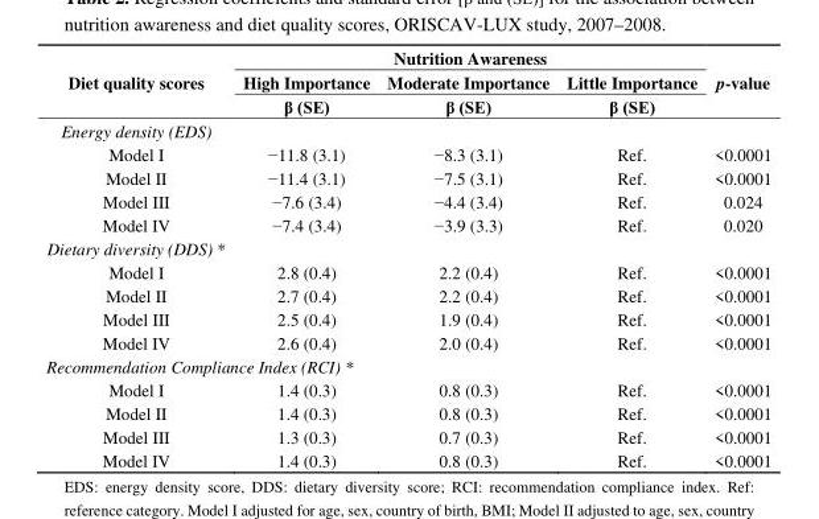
<table><thead><tr><td rowspan="3">Diet quality scores</td><td colspan="3">Nutrition Awareness</td><td rowspan="3">p-value</td></tr><tr><td rowspan="2">High Importance β (SE)</td><td rowspan="2">Moderate Importance β (SE)</td><td rowspan="2">Little Importance β (SE)</td></tr><tr></tr></thead><tbody><tr><td colspan="5">Energy density (EDS)</td></tr><tr><td>Model I</td><td>−11.8 (3.1)</td><td>−8.3 (3.1)</td><td>Ref.</td><td>&lt;0.0001</td></tr><tr><td>Model II</td><td>−11.4 (3.1)</td><td>−7.5 (3.1)</td><td>Ref.</td><td>&lt;0.0001</td></tr><tr><td>Model III</td><td>−7.6 (3.4)</td><td>−4.4 (3.4)</td><td>Ref.</td><td>0.024</td></tr><tr><td>Model IV</td><td>−7.4 (3.4)</td><td>−3.9 (3.3)</td><td>Ref.</td><td>0.020</td></tr><tr><td colspan="5">Dietary diversity (DDS) *</td></tr><tr><td>Model I</td><td>2.8 (0.4)</td><td>2.2 (0.4)</td><td>Ref.</td><td>&lt;0.0001</td></tr><tr><td>Model II</td><td>2.7 (0.4)</td><td>2.2 (0.4)</td><td>Ref.</td><td>&lt;0.0001</td></tr><tr><td>Model III</td><td>2.5 (0.4)</td><td>1.9 (0.4)</td><td>Ref.</td><td>&lt;0.0001</td></tr><tr><td>Model IV</td><td>2.6 (0.4)</td><td>2.0 (0.4)</td><td>Ref.</td><td>&lt;0.0001</td></tr><tr><td colspan="5">Recommendation Compliance Index (RCI) *</td></tr><tr><td>Model I</td><td>1.4 (0.3)</td><td>0.8 (0.3)</td><td>Ref.</td><td>&lt;0.0001</td></tr><tr><td>Model II</td><td>1.4 (0.3)</td><td>0.8 (0.3)</td><td>Ref.</td><td>&lt;0.0001</td></tr><tr><td>Model III</td><td>1.3 (0.3)</td><td>0.7 (0.3)</td><td>Ref.</td><td>&lt;0.0001</td></tr><tr><td>Model IV</td><td>1.4 (0.3)</td><td>0.8 (0.3)</td><td>Ref.</td><td>&lt;0.0001</td></tr></tbody></table>